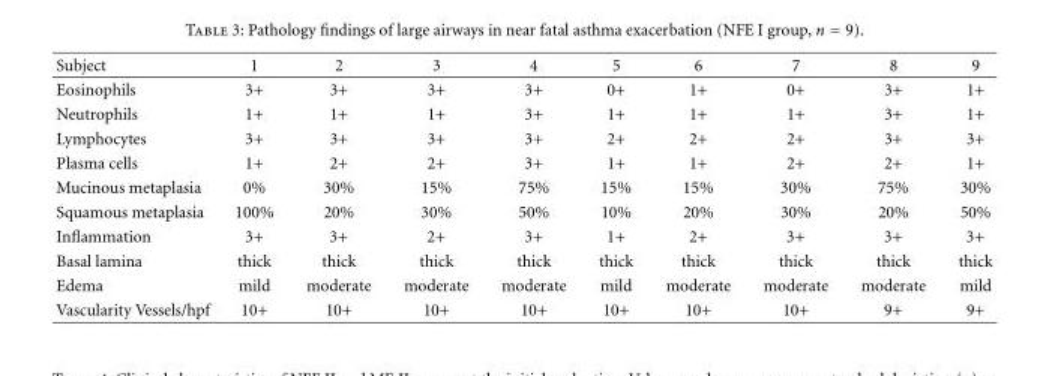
<table><thead><tr><td>Subject</td><td>1</td><td>2</td><td>3</td><td>4</td><td>5</td><td>6</td><td>7</td><td>8</td><td>9</td></tr></thead><tbody><tr><td>Eosinophils</td><td>3+</td><td>3+</td><td>3+</td><td>3+</td><td>0+</td><td>1+</td><td>0+</td><td>3+</td><td>1+</td></tr><tr><td>Neutrophils</td><td>1+</td><td>1+</td><td>1+</td><td>3+</td><td>1+</td><td>1+</td><td>1+</td><td>3+</td><td>1+</td></tr><tr><td>Lymphocytes</td><td>3+</td><td>3+</td><td>3+</td><td>3+</td><td>2+</td><td>2+</td><td>2+</td><td>3+</td><td>3+</td></tr><tr><td>Plasma cells</td><td>1+</td><td>2+</td><td>2+</td><td>3+</td><td>1+</td><td>1+</td><td>2+</td><td>2+</td><td>1+</td></tr><tr><td>Mucinous metaplasia</td><td>0%</td><td>30%</td><td>15%</td><td>75%</td><td>15%</td><td>15%</td><td>30%</td><td>75%</td><td>30%</td></tr><tr><td>Squamous metaplasia</td><td>100%</td><td>20%</td><td>30%</td><td>50%</td><td>10%</td><td>20%</td><td>30%</td><td>20%</td><td>50%</td></tr><tr><td>Inflammation</td><td>3+</td><td>3+</td><td>2+</td><td>3+</td><td>1+</td><td>2+</td><td>3+</td><td>3+</td><td>3+</td></tr><tr><td>Basal lamina</td><td>thick</td><td>thick</td><td>thick</td><td>thick</td><td>thick</td><td>thick</td><td>thick</td><td>thick</td><td>thick</td></tr><tr><td>Edema</td><td>mild</td><td>moderate</td><td>moderate</td><td>moderate</td><td>mild</td><td>moderate</td><td>moderate</td><td>moderate</td><td>mild</td></tr><tr><td>Vascularity Vessels/hpf</td><td>10+</td><td>10+</td><td>10+</td><td>10+</td><td>10+</td><td>10+</td><td>10+</td><td>9+</td><td>9+</td></tr></tbody></table>